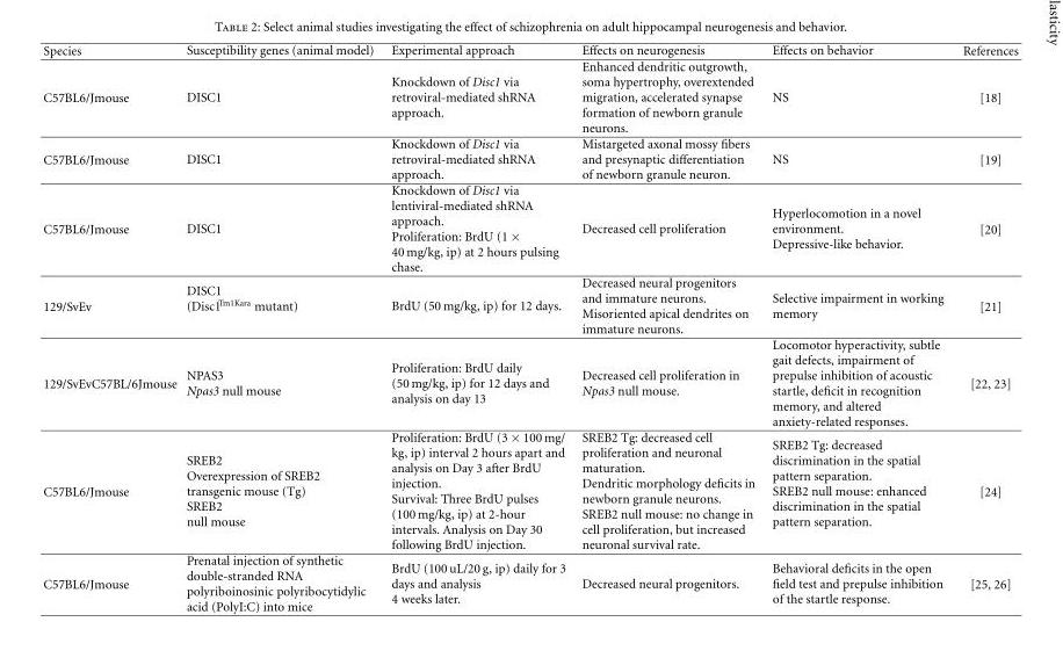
<table><thead><tr><td>Species</td><td>Susceptibility genes (animal model)</td><td>Experimental approach</td><td>Effects on neurogenesis</td><td>Effects on behavior</td><td>References</td></tr></thead><tbody><tr><td>C57BL6/Jmouse</td><td>DISC1</td><td>Knockdown of Disc1 via retroviral-mediated shRNA approach.</td><td>Enhanced dendritic outgrowth, soma hypertrophy, overextended migration, accelerated synapse formation of newborn granule neurons.</td><td>NS</td><td>[18]</td></tr><tr><td>C57BL6/Jmouse</td><td>DISC1</td><td>Knockdown of Disc1 via retroviral-mediated shRNA approach.</td><td>Mistargeted axonal mossy fibers and presynaptic differentiation of newborn granule neuron.</td><td>NS</td><td>[19]</td></tr><tr><td>C57BL6/Jmouse</td><td>DISC1</td><td>Knockdown of Disc1 via lentiviral-mediated shRNA approach. Proliferation: BrdU (1 × 40 mg/kg, ip) at 2 hours pulsing chase.</td><td>Decreased cell proliferation</td><td>Hyperlocomotion in a novel environment. Depressive-like behavior.</td><td>[20]</td></tr><tr><td>129/SvEv</td><td>DISC1 (Disc1<sup>Tm1Kara</sup> mutant)</td><td>BrdU (50 mg/kg, ip) for 12 days.</td><td>Decreased neural progenitors and immature neurons. Misoriented apical dendrites on immature neurons.</td><td>Selective impairment in working memory</td><td>[21]</td></tr><tr><td>129/SvEvC57BL/6Jmouse</td><td>NPAS3 Npas3 null mouse</td><td>Proliferation: BrdU daily (50 mg/kg, ip) for 12 days and analysis on day 13</td><td>Decreased cell proliferation in Npas3 null mouse.</td><td>Locomotor hyperactivity, subtle gait defects, impairment of prepulse inhibition of acoustic startle, deficit in recognition memory, and altered anxiety-related responses.</td><td>[22, 23]</td></tr><tr><td>C57BL6/Jmouse</td><td>SREB2 Overexpression of SREB2 transgenic mouse (Tg) SREB2 null mouse</td><td>Proliferation: BrdU (3 × 100 mg/ kg, ip) interval 2 hours apart and analysis on Day 3 after BrdU injection. Survival: Three BrdU pulses (100 mg/kg, ip) at 2-hour intervals. Analysis on Day 30 following BrdU injection.</td><td>SREB2 Tg: decreased cell proliferation and neuronal maturation. Dendritic morphology deficits in newborn granule neurons. SREB2 null mouse: no change in cell proliferation, but increased neuronal survival rate.</td><td>SREB2 Tg: decreased discrimination in the spatial pattern separation. SREB2 null mouse: enhanced discrimination in the spatial pattern separation.</td><td>[24]</td></tr><tr><td>C57BL6/Jmouse</td><td>Prenatal injection of synthetic double-stranded RNA polyriboinosinic polyribocytidylic acid (PolyI:C) into mice</td><td>BrdU (100 uL/20 g, ip) daily for 3 days and analysis 4 weeks later.</td><td>Decreased neural progenitors.</td><td>Behavioral deficits in the open field test and prepulse inhibition of the startle response.</td><td>[25, 26]</td></tr></tbody></table>